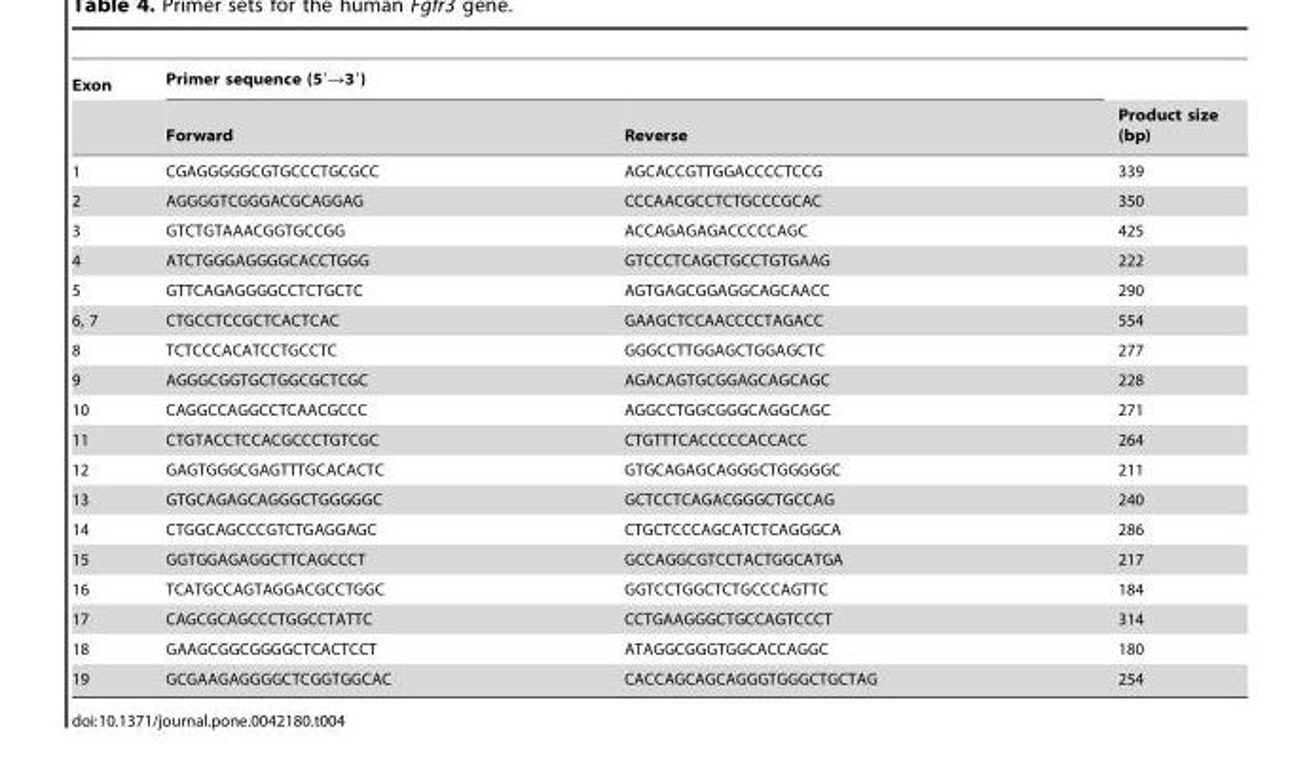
<table><thead><tr><td rowspan="2">Exon</td><td colspan="2">Primer sequence (5′→3′)</td><td rowspan="2">Product size (bp)</td></tr><tr><td>Forward</td><td>Reverse</td></tr></thead><tbody><tr><td>1</td><td>CGAGGGGGCGTGCCCTGCGCC</td><td>AGCACCGTTGGACCCCTCCG</td><td>339</td></tr><tr><td>2</td><td>AGGGGTCGGGACGCAGGAG</td><td>CCCAACGCCTCTGCCCGCAC</td><td>350</td></tr><tr><td>3</td><td>GTCTGTAAACGGTGCCGG</td><td>ACCAGAGAGACCCCCAGC</td><td>425</td></tr><tr><td>4</td><td>ATCTGGGAGGGGCACCTGGG</td><td>GTCCCTCAGCTGCCTGTGAAG</td><td>222</td></tr><tr><td>5</td><td>GTTCAGAGGGGCCTCTGCTC</td><td>AGTGAGCGGAGGCAGCAACC</td><td>290</td></tr><tr><td>6, 7</td><td>CTGCCTCCGCTCACTCAC</td><td>GAAGCTCCAACCCCTAGACC</td><td>554</td></tr><tr><td>8</td><td>TCTCCCACATCCTGCCTC</td><td>GGGCCTTGGAGCTGGAGCTC</td><td>277</td></tr><tr><td>9</td><td>AGGGCGGTGCTGGCGCTCGC</td><td>AGACAGTGCGGAGCAGCAGC</td><td>228</td></tr><tr><td>10</td><td>CAGGCCAGGCCTCAACGCCC</td><td>AGGCCTGGCGGGCAGGCAGC</td><td>271</td></tr><tr><td>11</td><td>CTGTACCTCCACGCCCTGTCGC</td><td>CTGTTTCACCCCCACCACC</td><td>264</td></tr><tr><td>12</td><td>GAGTGGGCGAGTTTGCACACTC</td><td>GTGCAGAGCAGGGCTGGGGGC</td><td>211</td></tr><tr><td>13</td><td>GTGCAGAGCAGGGCTGGGGGC</td><td>GCTCCTCAGACGGGCTGCCAG</td><td>240</td></tr><tr><td>14</td><td>CTGGCAGCCCGTCTGAGGAGC</td><td>CTGCTCCCAGCATCTCAGGGCA</td><td>286</td></tr><tr><td>15</td><td>GGTGGAGAGGCTTCAGCCCT</td><td>GCCAGGCGTCCTACTGGCATGA</td><td>217</td></tr><tr><td>16</td><td>TCATGCCAGTAGGACGCCTGGC</td><td>GGTCCTGGCTCTGCCCAGTTC</td><td>184</td></tr><tr><td>17</td><td>CAGCGCAGCCCTGGCCTATTC</td><td>CCTGAAGGGCTGCCAGTCCCT</td><td>314</td></tr><tr><td>18</td><td>GAAGCGGCGGGGCTCACTCCT</td><td>ATAGGCGGGTGGCACCAGGC</td><td>180</td></tr><tr><td>19</td><td>GCGAAGAGGGGCTCGGTGGCAC</td><td>CACCAGCAGCAGGGTGGGCTGCTAG</td><td>254</td></tr></tbody></table>